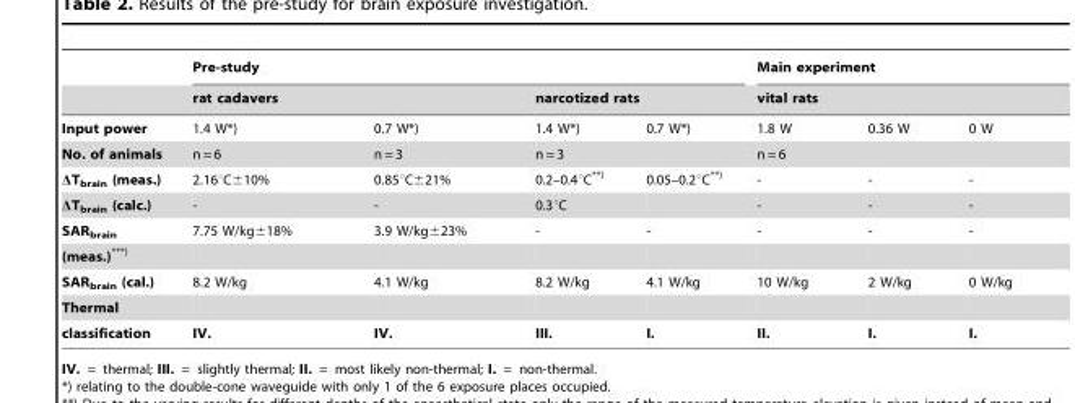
<table><thead><tr><td rowspan="3">Input power</td><td colspan="4">Pre-study</td><td rowspan="2" colspan="3">Main experiment vital rats</td></tr><tr><td colspan="2">rat cadavers</td><td colspan="2">narcotized rats</td></tr><tr><td>1.4 W*)</td><td>0.7 W*)</td><td>1.4 W*)</td><td>0.7 W*)</td><td>1.8 W</td><td>0.36 W</td><td>0 W</td></tr></thead><tbody><tr><td>No. of animals</td><td>n = 6</td><td>n = 3</td><td colspan="2">n = 3</td><td colspan="3">n = 6</td></tr><tr><td>ΔT<sub>brain</sub> (meas.)</td><td>2.16°C±10%</td><td>0.85°C±21%</td><td>0.2–0.4°C**<sup>)</sup></td><td>0.05–0.2°C**<sup>)</sup></td><td>-</td><td>-</td><td>-</td></tr><tr><td>ΔT<sub>brain</sub> (calc.)</td><td>-</td><td>-</td><td>0.3°C</td><td></td><td>-</td><td>-</td><td>-</td></tr><tr><td>SAR<sub>brain</sub></td><td>7.75 W/kg±18%</td><td>3.9 W/kg±23%</td><td>-</td><td>-</td><td>-</td><td>-</td><td>-</td></tr><tr><td colspan="8">(meas.)<sup>***)</sup></td></tr><tr><td>SAR<sub>brain</sub> (cal.)</td><td>8.2 W/kg</td><td>4.1 W/kg</td><td>8.2 W/kg</td><td>4.1 W/kg</td><td>10 W/kg</td><td>2 W/kg</td><td>0 W/kg</td></tr><tr><td colspan="8">Thermal</td></tr><tr><td>classification</td><td>IV.</td><td>IV.</td><td>III.</td><td>I.</td><td>II.</td><td>I.</td><td>I.</td></tr></tbody></table>